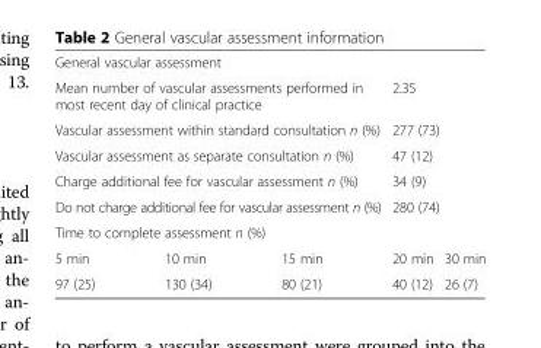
<table><tbody><tr><td colspan="5">General vascular assessment</td></tr><tr><td colspan="3">Mean number of vascular assessments performed in most recent day of clinical practice</td><td colspan="2">2.35</td></tr><tr><td colspan="3">Vascular assessment within standard consultation n (%)</td><td colspan="2">277 (73)</td></tr><tr><td colspan="3">Vascular assessment as separate consultation n (%)</td><td colspan="2">47 (12)</td></tr><tr><td colspan="3">Charge additional fee for vascular assessment n (%)</td><td colspan="2">34 (9)</td></tr><tr><td colspan="3">Do not charge additional fee for vascular assessment n (%)</td><td colspan="2">280 (74)</td></tr><tr><td colspan="5">Time to complete assessment n (%)</td></tr><tr><td>5 min</td><td>10 min</td><td>15 min</td><td>20 min</td><td>30 min</td></tr><tr><td>97 (25)</td><td>130 (34)</td><td>80 (21)</td><td>40 (12)</td><td>26 (7)</td></tr></tbody></table>